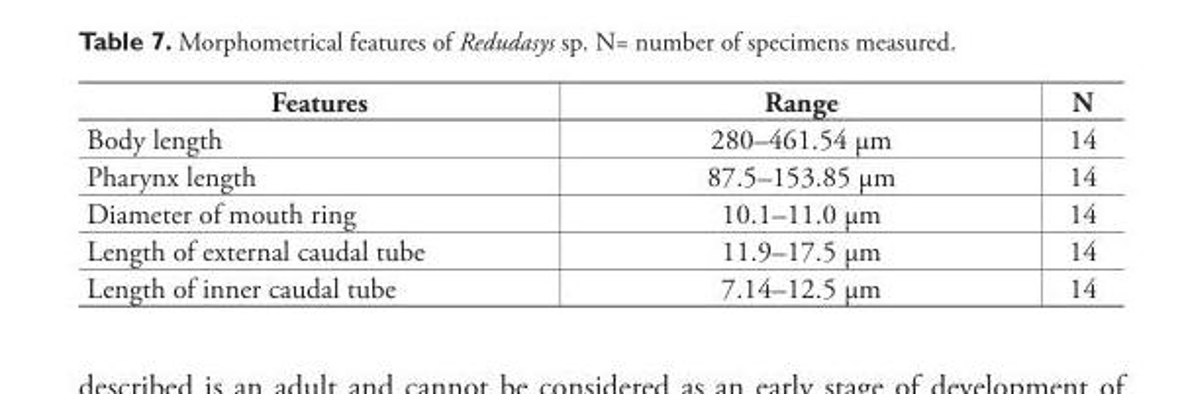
<table><thead><tr><td>Features</td><td>Range</td><td>N</td></tr></thead><tbody><tr><td>Body length</td><td>280–461.54 μm</td><td>14</td></tr><tr><td>Pharynx length</td><td>87.5–153.85 μm</td><td>14</td></tr><tr><td>Diameter of mouth ring</td><td>10.1–11.0 μm</td><td>14</td></tr><tr><td>Length of external caudal tube</td><td>11.9–17.5 μm</td><td>14</td></tr><tr><td>Length of inner caudal tube</td><td>7.14–12.5 μm</td><td>14</td></tr></tbody></table>